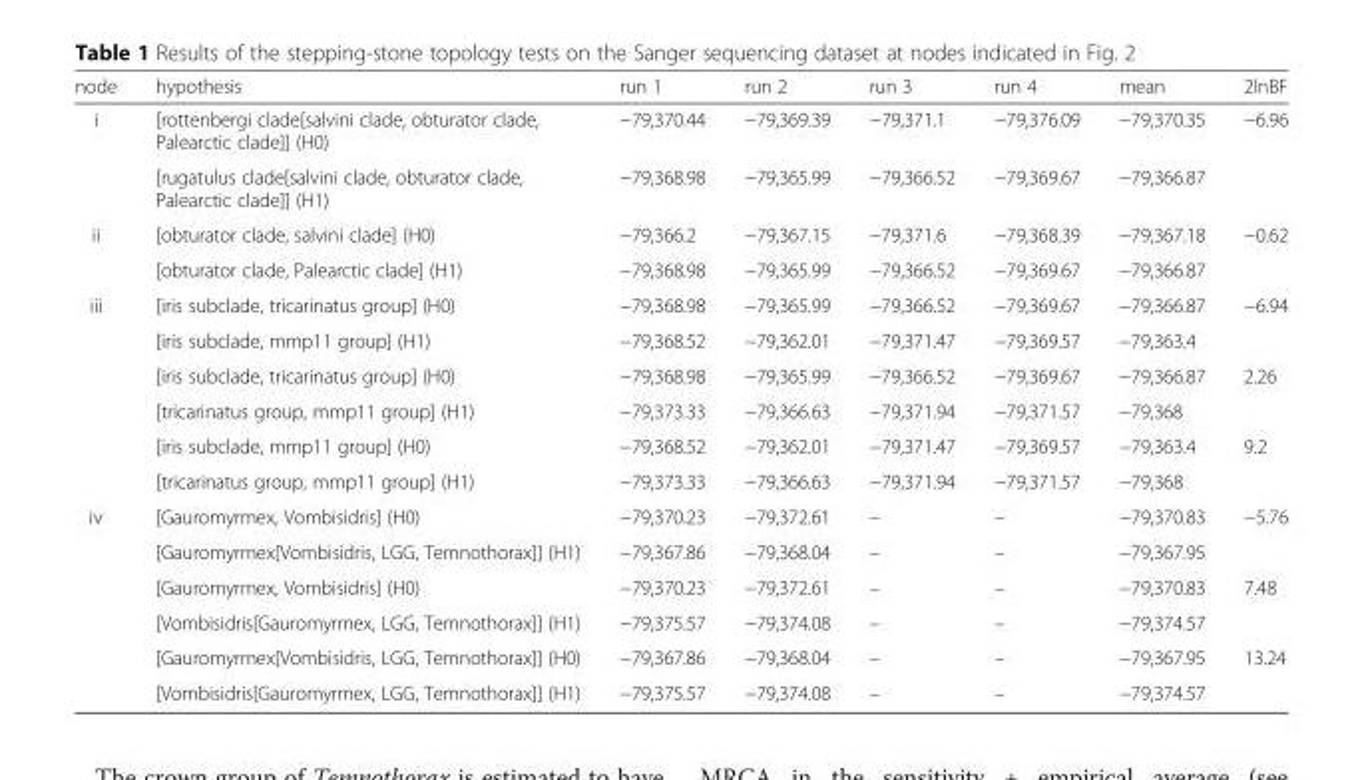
<table><thead><tr><td>node</td><td>hypothesis</td><td>run 1</td><td>run 2</td><td>run 3</td><td>run 4</td><td>mean</td><td>2lnBF</td></tr></thead><tbody><tr><td rowspan="2">i</td><td>[rottenbergi clade[salvini clade, obturator clade, Palearctic clade]] (H0)</td><td>−79,370.44</td><td>−79,369.39</td><td>−79,371.1</td><td>−79,376.09</td><td>−79,370.35</td><td rowspan="2">−6.96</td></tr><tr><td>[rugatulus clade[salvini clade, obturator clade, Palearctic clade]] (H1)</td><td>−79,368.98</td><td>−79,365.99</td><td>−79,366.52</td><td>−79,369.67</td><td>−79,366.87</td></tr><tr><td rowspan="2">ii</td><td>[obturator clade, salvini clade] (H0)</td><td>−79,366.2</td><td>−79,367.15</td><td>−79,371.6</td><td>−79,368.39</td><td>−79,367.18</td><td rowspan="2">−0.62</td></tr><tr><td>[obturator clade, Palearctic clade] (H1)</td><td>−79,368.98</td><td>−79,365.99</td><td>−79,366.52</td><td>−79,369.67</td><td>−79,366.87</td></tr><tr><td rowspan="6">iii</td><td>[iris subclade, tricarinatus group] (H0)</td><td>−79,368.98</td><td>−79,365.99</td><td>−79,366.52</td><td>−79,369.67</td><td>−79,366.87</td><td rowspan="2">−6.94</td></tr><tr><td>[iris subclade, mmp11 group] (H1)</td><td>−79,368.52</td><td>−79,362.01</td><td>−79,371.47</td><td>−79,369.57</td><td>−79,363.4</td></tr><tr><td>[iris subclade, tricarinatus group] (H0)</td><td>−79,368.98</td><td>−79,365.99</td><td>−79,366.52</td><td>−79,369.67</td><td>−79,366.87</td><td rowspan="2">2.26</td></tr><tr><td>[tricarinatus group, mmp11 group] (H1)</td><td>−79,373.33</td><td>−79,366.63</td><td>−79,371.94</td><td>−79,371.57</td><td>−79,368</td></tr><tr><td>[iris subclade, mmp11 group] (H0)</td><td>−79,368.52</td><td>−79,362.01</td><td>−79,371.47</td><td>−79,369.57</td><td>−79,363.4</td><td rowspan="2">9.2</td></tr><tr><td>[tricarinatus group, mmp11 group] (H1)</td><td>−79,373.33</td><td>−79,366.63</td><td>−79,371.94</td><td>−79,371.57</td><td>−79,368</td></tr><tr><td rowspan="6">iv</td><td>[Gauromyrmex, Vombisidris] (H0)</td><td>−79,370.23</td><td>−79,372.61</td><td>–</td><td>–</td><td>−79,370.83</td><td rowspan="2">−5.76</td></tr><tr><td>[Gauromyrmex[Vombisidris, LGG, Temnothorax]] (H1)</td><td>−79,367.86</td><td>−79,368.04</td><td>–</td><td>–</td><td>−79,367.95</td></tr><tr><td>[Gauromyrmex, Vombisidris] (H0)</td><td>−79,370.23</td><td>−79,372.61</td><td>–</td><td>–</td><td>−79,370.83</td><td rowspan="2">7.48</td></tr><tr><td>[Vombisidris[Gauromyrmex, LGG, Temnothorax]] (H1)</td><td>−79,375.57</td><td>−79,374.08</td><td>–</td><td>–</td><td>−79,374.57</td></tr><tr><td>[Gauromyrmex[Vombisidris, LGG, Temnothorax]] (H0)</td><td>−79,367.86</td><td>−79,368.04</td><td>–</td><td>–</td><td>−79,367.95</td><td rowspan="2">13.24</td></tr><tr><td>[Vombisidris[Gauromyrmex, LGG, Temnothorax]] (H1)</td><td>−79,375.57</td><td>−79,374.08</td><td>–</td><td>–</td><td>−79,374.57</td></tr></tbody></table>